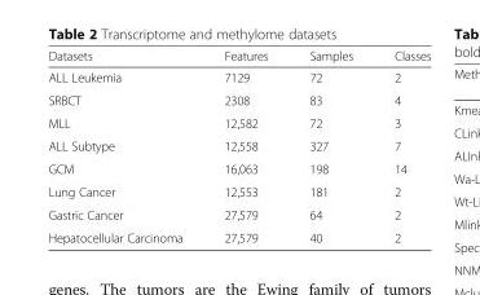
<table><thead><tr><td>Datasets</td><td>Features</td><td>Samples</td><td>Classes</td></tr></thead><tbody><tr><td>ALL Leukemia</td><td>7129</td><td>72</td><td>2</td></tr><tr><td>SRBCT</td><td>2308</td><td>83</td><td>4</td></tr><tr><td>MLL</td><td>12,582</td><td>72</td><td>3</td></tr><tr><td>ALL Subtype</td><td>12,558</td><td>327</td><td>7</td></tr><tr><td>GCM</td><td>16,063</td><td>198</td><td>14</td></tr><tr><td>Lung Cancer</td><td>12,553</td><td>181</td><td>2</td></tr><tr><td>Gastric Cancer</td><td>27,579</td><td>64</td><td>2</td></tr><tr><td>Hepatocellular Carcinoma</td><td>27,579</td><td>40</td><td>2</td></tr></tbody></table>